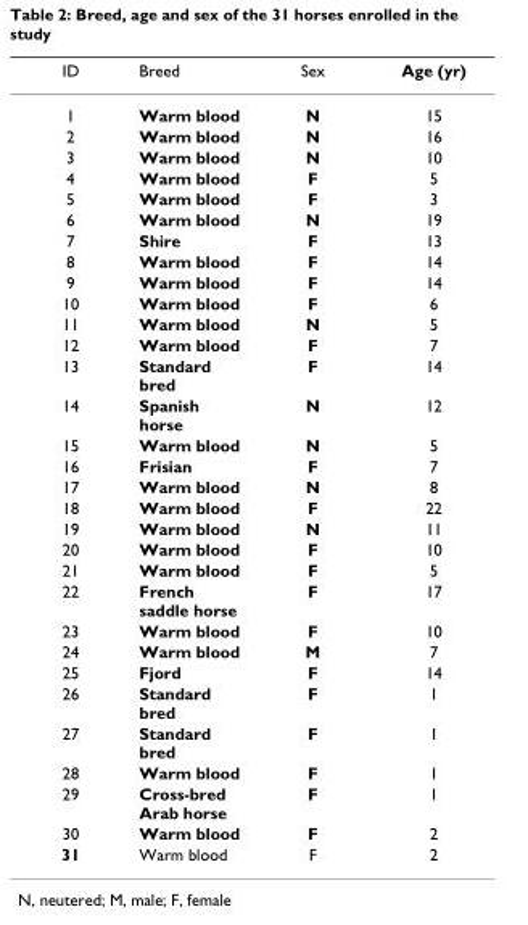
<table><thead><tr><td>ID</td><td>Breed</td><td>Sex</td><td>Age (yr)</td></tr></thead><tbody><tr><td>1</td><td>Warm blood</td><td>N</td><td>15</td></tr><tr><td>2</td><td>Warm blood</td><td>N</td><td>16</td></tr><tr><td>3</td><td>Warm blood</td><td>N</td><td>10</td></tr><tr><td>4</td><td>Warm blood</td><td>F</td><td>5</td></tr><tr><td>5</td><td>Warm blood</td><td>F</td><td>3</td></tr><tr><td>6</td><td>Warm blood</td><td>N</td><td>19</td></tr><tr><td>7</td><td>Shire</td><td>F</td><td>13</td></tr><tr><td>8</td><td>Warm blood</td><td>F</td><td>14</td></tr><tr><td>9</td><td>Warm blood</td><td>F</td><td>14</td></tr><tr><td>10</td><td>Warm blood</td><td>F</td><td>6</td></tr><tr><td>11</td><td>Warm blood</td><td>N</td><td>5</td></tr><tr><td>12</td><td>Warm blood</td><td>F</td><td>7</td></tr><tr><td>13</td><td>Standard bred</td><td>F</td><td>14</td></tr><tr><td>14</td><td>Spanish horse</td><td>N</td><td>12</td></tr><tr><td>15</td><td>Warm blood</td><td>N</td><td>5</td></tr><tr><td>16</td><td>Frisian</td><td>F</td><td>7</td></tr><tr><td>17</td><td>Warm blood</td><td>N</td><td>8</td></tr><tr><td>18</td><td>Warm blood</td><td>F</td><td>22</td></tr><tr><td>19</td><td>Warm blood</td><td>N</td><td>11</td></tr><tr><td>20</td><td>Warm blood</td><td>F</td><td>10</td></tr><tr><td>21</td><td>Warm blood</td><td>F</td><td>5</td></tr><tr><td>22</td><td>French saddle horse</td><td>F</td><td>17</td></tr><tr><td>23</td><td>Warm blood</td><td>F</td><td>10</td></tr><tr><td>24</td><td>Warm blood</td><td>M</td><td>7</td></tr><tr><td>25</td><td>Fjord</td><td>F</td><td>14</td></tr><tr><td>26</td><td>Standard bred</td><td>F</td><td>1</td></tr><tr><td>27</td><td>Standard bred</td><td>F</td><td>1</td></tr><tr><td>28</td><td>Warm blood</td><td>F</td><td>1</td></tr><tr><td>29</td><td>Cross-bred Arab horse</td><td>F</td><td>1</td></tr><tr><td>30</td><td>Warm blood</td><td>F</td><td>2</td></tr><tr><td>31</td><td>Warm blood</td><td>F</td><td>2</td></tr></tbody></table>